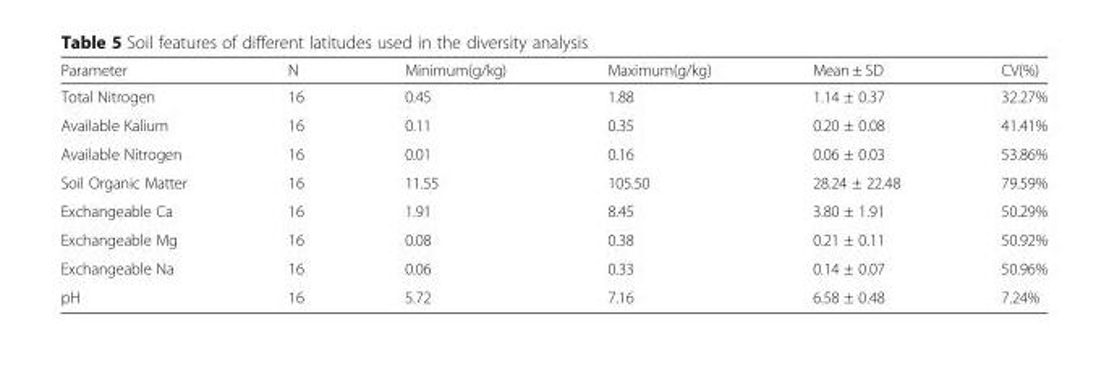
<table><thead><tr><td>Parameter</td><td>N</td><td>Minimum(g/kg)</td><td>Maximum(g/kg)</td><td>Mean ± SD</td><td>CV(%)</td></tr></thead><tbody><tr><td>Total Nitrogen</td><td>16</td><td>0.45</td><td>1.88</td><td>1.14 ± 0.37</td><td>32.27%</td></tr><tr><td>Available Kalium</td><td>16</td><td>0.11</td><td>0.35</td><td>0.20 ± 0.08</td><td>41.41%</td></tr><tr><td>Available Nitrogen</td><td>16</td><td>0.01</td><td>0.16</td><td>0.06 ± 0.03</td><td>53.86%</td></tr><tr><td>Soil Organic Matter</td><td>16</td><td>11.55</td><td>105.50</td><td>28.24 ± 22.48</td><td>79.59%</td></tr><tr><td>Exchangeable Ca</td><td>16</td><td>1.91</td><td>8.45</td><td>3.80 ± 1.91</td><td>50.29%</td></tr><tr><td>Exchangeable Mg</td><td>16</td><td>0.08</td><td>0.38</td><td>0.21 ± 0.11</td><td>50.92%</td></tr><tr><td>Exchangeable Na</td><td>16</td><td>0.06</td><td>0.33</td><td>0.14 ± 0.07</td><td>50.96%</td></tr><tr><td>pH</td><td>16</td><td>5.72</td><td>7.16</td><td>6.58 ± 0.48</td><td>7.24%</td></tr></tbody></table>